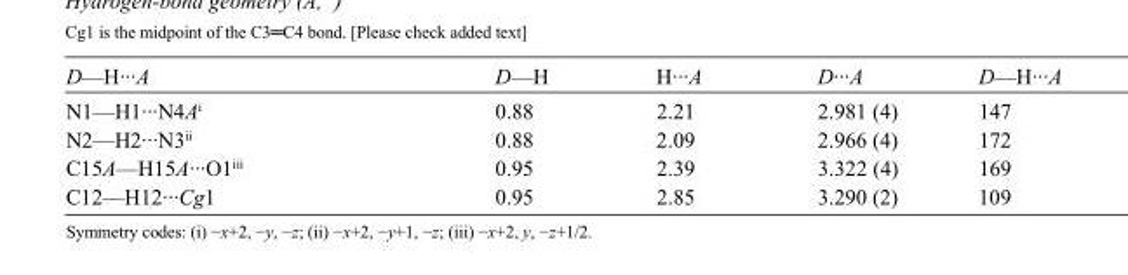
<table><tbody><tr><td>D—H···A</td><td>D—H</td><td>H···A</td><td>D···A</td><td>D—H···A</td></tr><tr><td>N1—H1···N4A<sup>i</sup></td><td>0.88</td><td>2.21</td><td>2.981 (4)</td><td>147</td></tr><tr><td>N2—H2···N3<sup>ii</sup></td><td>0.88</td><td>2.09</td><td>2.966 (4)</td><td>172</td></tr><tr><td>C15A—H15A···O1<sup>iii</sup></td><td>0.95</td><td>2.39</td><td>3.322 (4)</td><td>169</td></tr><tr><td>C12—H12···Cg1</td><td>0.95</td><td>2.85</td><td>3.290 (2)</td><td>109</td></tr></tbody></table>